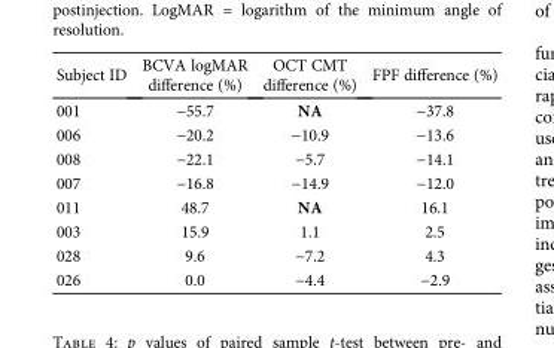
<table><thead><tr><td>Subject ID</td><td>BCVA logMAR difference (%)</td><td>OCT CMT difference (%)</td><td>FPF difference (%)</td></tr></thead><tbody><tr><td>001</td><td>−55.7</td><td>NA</td><td>−37.8</td></tr><tr><td>006</td><td>−20.2</td><td>−10.9</td><td>−13.6</td></tr><tr><td>008</td><td>−22.1</td><td>−5.7</td><td>−14.1</td></tr><tr><td>007</td><td>−16.8</td><td>−14.9</td><td>−12.0</td></tr><tr><td>011</td><td>48.7</td><td>NA</td><td>16.1</td></tr><tr><td>003</td><td>15.9</td><td>1.1</td><td>2.5</td></tr><tr><td>028</td><td>9.6</td><td>−7.2</td><td>4.3</td></tr><tr><td>026</td><td>0.0</td><td>−4.4</td><td>−2.9</td></tr></tbody></table>